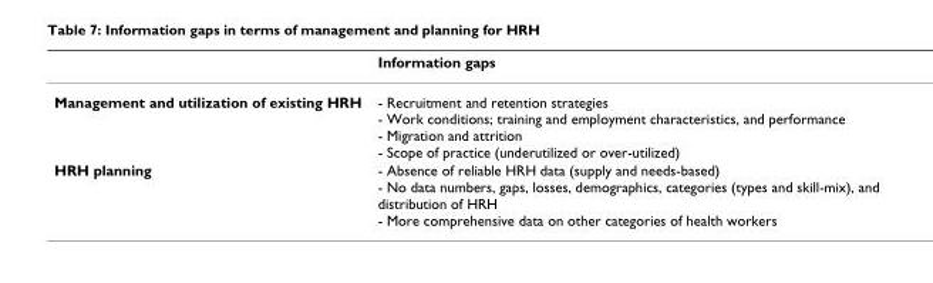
<table><thead><tr><td></td><td>Information gaps</td></tr></thead><tbody><tr><td>Management and utilization of existing HRH</td><td>- Recruitment and retention strategies - Work conditions; training and employment characteristics, and performance - Migration and attrition - Scope of practice (underutilized or over-utilized)</td></tr><tr><td>HRH planning</td><td>- Absence of reliable HRH data (supply and needs-based) - No data numbers, gaps, losses, demographics, categories (types and skill-mix), and distribution of HRH - More comprehensive data on other categories of health workers</td></tr></tbody></table>